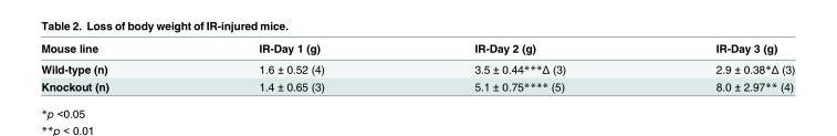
<table><thead><tr><td>Mouse line</td><td>IR-Day 1 (g)</td><td>IR-Day 2 (g)</td><td>IR-Day 3 (g)</td></tr></thead><tbody><tr><td>Wild-type (n)</td><td>1.6 ± 0.52 (4)</td><td>3.5 ± 0.44***Δ (3)</td><td>2.9 ± 0.38*Δ (3)</td></tr><tr><td>Knockout (n)</td><td>1.4 ± 0.65 (3)</td><td>5.1 ± 0.75**** (5)</td><td>8.0 ± 2.97** (4)</td></tr></tbody></table>